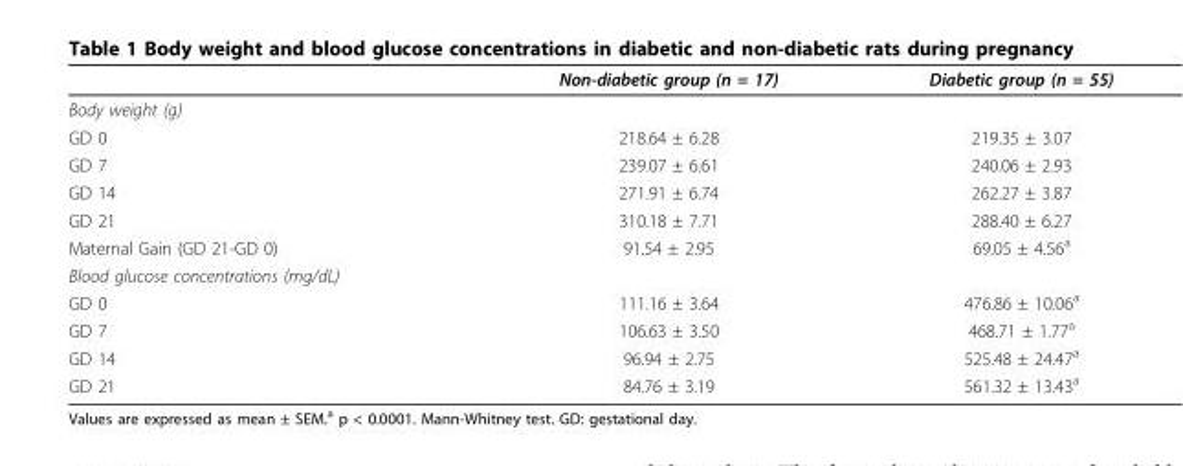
<table><thead><tr><td></td><td>Non-diabetic group (n = 17)</td><td>Diabetic group (n = 55)</td></tr></thead><tbody><tr><td colspan="3">Body weight (g)</td></tr><tr><td>GD 0</td><td>218.64 ± 6.28</td><td>219.35 ± 3.07</td></tr><tr><td>GD 7</td><td>239.07 ± 6.61</td><td>240.06 ± 2.93</td></tr><tr><td>GD 14</td><td>271.91 ± 6.74</td><td>262.27 ± 3.87</td></tr><tr><td>GD 21</td><td>310.18 ± 7.71</td><td>288.40 ± 6.27</td></tr><tr><td>Maternal Gain (GD 21-GD 0)</td><td>91.54 ± 2.95</td><td>69.05 ± 4.56<sup>a</sup></td></tr><tr><td colspan="3">Blood glucose concentrations (mg/dL)</td></tr><tr><td>GD 0</td><td>111.16 ± 3.64</td><td>476.86 ± 10.06<sup>a</sup></td></tr><tr><td>GD 7</td><td>106.63 ± 3.50</td><td>468.71 ± 1.77<sup>a</sup></td></tr><tr><td>GD 14</td><td>96.94 ± 2.75</td><td>525.48 ± 24.47<sup>a</sup></td></tr><tr><td>GD 21</td><td>84.76 ± 3.19</td><td>561.32 ± 13.43<sup>a</sup></td></tr></tbody></table>